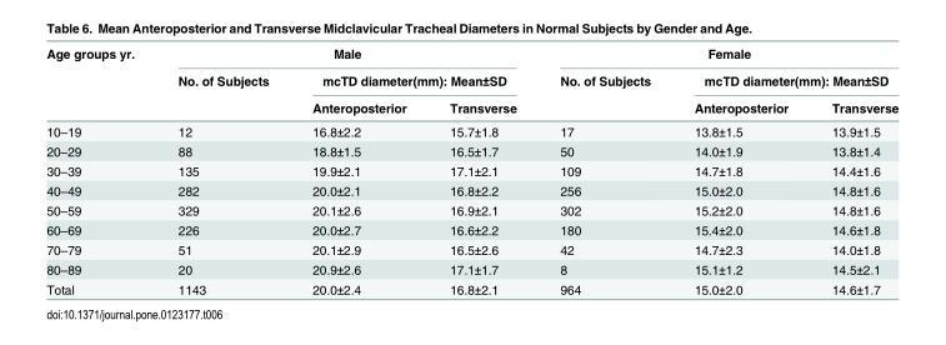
<table><thead><tr><td rowspan="3">Age groups yr.</td><td colspan="3">Male</td><td colspan="3">Female</td></tr><tr><td rowspan="2">No. of Subjects</td><td colspan="2">mcTD diameter(mm): Mean±SD</td><td rowspan="2">No. of Subjects</td><td colspan="2">mcTD diameter(mm): Mean±SD</td></tr><tr><td>Anteroposterior</td><td>Transverse</td><td>Anteroposterior</td><td>Transverse</td></tr></thead><tbody><tr><td>10–19</td><td>12</td><td>16.8±2.2</td><td>15.7±1.8</td><td>17</td><td>13.8±1.5</td><td>13.9±1.5</td></tr><tr><td>20–29</td><td>88</td><td>18.8±1.5</td><td>16.5±1.7</td><td>50</td><td>14.0±1.9</td><td>13.8±1.4</td></tr><tr><td>30–39</td><td>135</td><td>19.9±2.1</td><td>17.1±2.1</td><td>109</td><td>14.7±1.8</td><td>14.4±1.6</td></tr><tr><td>40–49</td><td>282</td><td>20.0±2.1</td><td>16.8±2.2</td><td>256</td><td>15.0±2.0</td><td>14.8±1.6</td></tr><tr><td>50–59</td><td>329</td><td>20.1±2.6</td><td>16.9±2.1</td><td>302</td><td>15.2±2.0</td><td>14.8±1.6</td></tr><tr><td>60–69</td><td>226</td><td>20.0±2.7</td><td>16.6±2.2</td><td>180</td><td>15.4±2.0</td><td>14.6±1.8</td></tr><tr><td>70–79</td><td>51</td><td>20.1±2.9</td><td>16.5±2.6</td><td>42</td><td>14.7±2.3</td><td>14.0±1.8</td></tr><tr><td>80–89</td><td>20</td><td>20.9±2.6</td><td>17.1±1.7</td><td>8</td><td>15.1±1.2</td><td>14.5±2.1</td></tr><tr><td>Total</td><td>1143</td><td>20.0±2.4</td><td>16.8±2.1</td><td>964</td><td>15.0±2.0</td><td>14.6±1.7</td></tr></tbody></table>